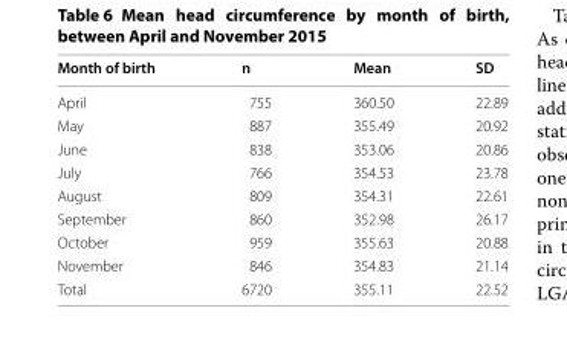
<table><thead><tr><td>Month of birth</td><td>n</td><td>Mean</td><td>SD</td></tr></thead><tbody><tr><td>April</td><td>755</td><td>360.50</td><td>22.89</td></tr><tr><td>May</td><td>887</td><td>355.49</td><td>20.92</td></tr><tr><td>June</td><td>838</td><td>353.06</td><td>20.86</td></tr><tr><td>July</td><td>766</td><td>354.53</td><td>23.78</td></tr><tr><td>August</td><td>809</td><td>354.31</td><td>22.61</td></tr><tr><td>September</td><td>860</td><td>352.98</td><td>26.17</td></tr><tr><td>October</td><td>959</td><td>355.63</td><td>20.88</td></tr><tr><td>November</td><td>846</td><td>354.83</td><td>21.14</td></tr><tr><td>Total</td><td>6720</td><td>355.11</td><td>22.52</td></tr></tbody></table>